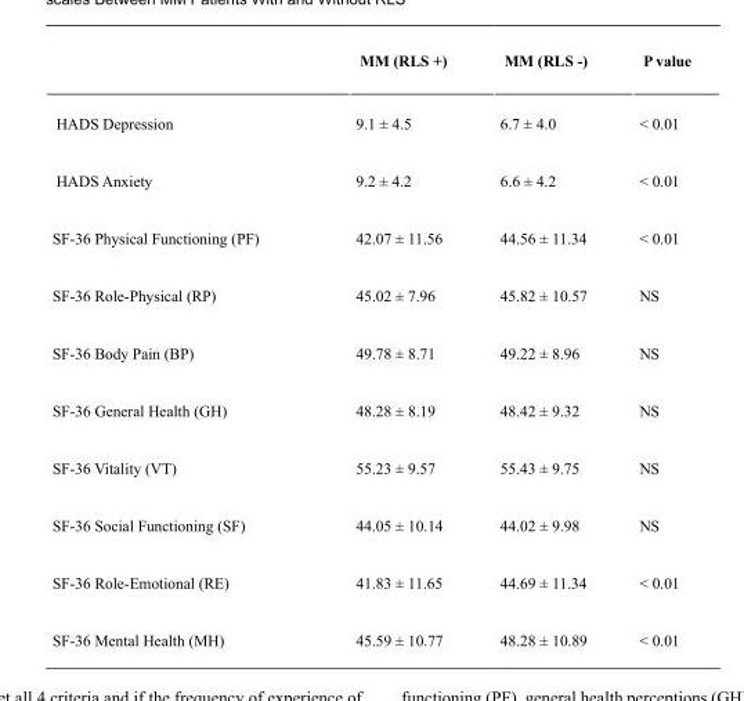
<table><thead><tr><td></td><td>MM (RLS +)</td><td>MM (RLS -)</td><td>P value</td></tr></thead><tbody><tr><td>HADS Depression</td><td>9.1 ± 4.5</td><td>6.7 ± 4.0</td><td>&lt; 0.01</td></tr><tr><td>HADS Anxiety</td><td>9.2 ± 4.2</td><td>6.6 ± 4.2</td><td>&lt; 0.01</td></tr><tr><td>SF-36 Physical Functioning (PF)</td><td>42.07 ± 11.56</td><td>44.56 ± 11.34</td><td>&lt; 0.01</td></tr><tr><td>SF-36 Role-Physical (RP)</td><td>45.02 ± 7.96</td><td>45.82 ± 10.57</td><td>NS</td></tr><tr><td>SF-36 Body Pain (BP)</td><td>49.78 ± 8.71</td><td>49.22 ± 8.96</td><td>NS</td></tr><tr><td>SF-36 General Health (GH)</td><td>48.28 ± 8.19</td><td>48.42 ± 9.32</td><td>NS</td></tr><tr><td>SF-36 Vitality (VT)</td><td>55.23 ± 9.57</td><td>55.43 ± 9.75</td><td>NS</td></tr><tr><td>SF-36 Social Functioning (SF)</td><td>44.05 ± 10.14</td><td>44.02 ± 9.98</td><td>NS</td></tr><tr><td>SF-36 Role-Emotional (RE)</td><td>41.83 ± 11.65</td><td>44.69 ± 11.34</td><td>&lt; 0.01</td></tr><tr><td>SF-36 Mental Health (MH)</td><td>45.59 ± 10.77</td><td>48.28 ± 10.89</td><td>&lt; 0.01</td></tr></tbody></table>